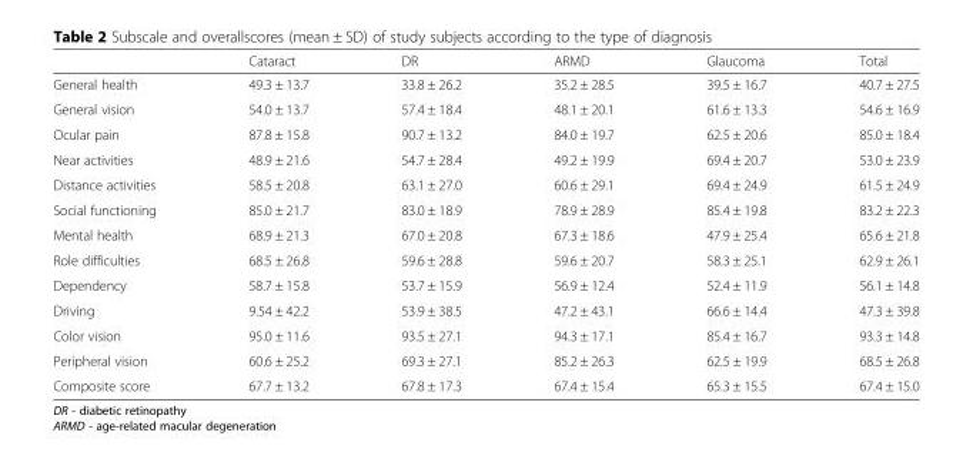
<table><thead><tr><td></td><td>Cataract</td><td>DR</td><td>ARMD</td><td>Glaucoma</td><td>Total</td></tr></thead><tbody><tr><td>General health</td><td>49.3 ± 13.7</td><td>33.8 ± 26.2</td><td>35.2 ± 28.5</td><td>39.5 ± 16.7</td><td>40.7 ± 27.5</td></tr><tr><td>General vision</td><td>54.0 ± 13.7</td><td>57.4 ± 18.4</td><td>48.1 ± 20.1</td><td>61.6 ± 13.3</td><td>54.6 ± 16.9</td></tr><tr><td>Ocular pain</td><td>87.8 ± 15.8</td><td>90.7 ± 13.2</td><td>84.0 ± 19.7</td><td>62.5 ± 20.6</td><td>85.0 ± 18.4</td></tr><tr><td>Near activities</td><td>48.9 ± 21.6</td><td>54.7 ± 28.4</td><td>49.2 ± 19.9</td><td>69.4 ± 20.7</td><td>53.0 ± 23.9</td></tr><tr><td>Distance activities</td><td>58.5 ± 20.8</td><td>63.1 ± 27.0</td><td>60.6 ± 29.1</td><td>69.4 ± 24.9</td><td>61.5 ± 24.9</td></tr><tr><td>Social functioning</td><td>85.0 ± 21.7</td><td>83.0 ± 18.9</td><td>78.9 ± 28.9</td><td>85.4 ± 19.8</td><td>83.2 ± 22.3</td></tr><tr><td>Mental health</td><td>68.9 ± 21.3</td><td>67.0 ± 20.8</td><td>67.3 ± 18.6</td><td>47.9 ± 25.4</td><td>65.6 ± 21.8</td></tr><tr><td>Role difficulties</td><td>68.5 ± 26.8</td><td>59.6 ± 28.8</td><td>59.6 ± 20.7</td><td>58.3 ± 25.1</td><td>62.9 ± 26.1</td></tr><tr><td>Dependency</td><td>58.7 ± 15.8</td><td>53.7 ± 15.9</td><td>56.9 ± 12.4</td><td>52.4 ± 11.9</td><td>56.1 ± 14.8</td></tr><tr><td>Driving</td><td>9.54 ± 42.2</td><td>53.9 ± 38.5</td><td>47.2 ± 43.1</td><td>66.6 ± 14.4</td><td>47.3 ± 39.8</td></tr><tr><td>Color vision</td><td>95.0 ± 11.6</td><td>93.5 ± 27.1</td><td>94.3 ± 17.1</td><td>85.4 ± 16.7</td><td>93.3 ± 14.8</td></tr><tr><td>Peripheral vision</td><td>60.6 ± 25.2</td><td>69.3 ± 27.1</td><td>85.2 ± 26.3</td><td>62.5 ± 19.9</td><td>68.5 ± 26.8</td></tr><tr><td>Composite score</td><td>67.7 ± 13.2</td><td>67.8 ± 17.3</td><td>67.4 ± 15.4</td><td>65.3 ± 15.5</td><td>67.4 ± 15.0</td></tr></tbody></table>